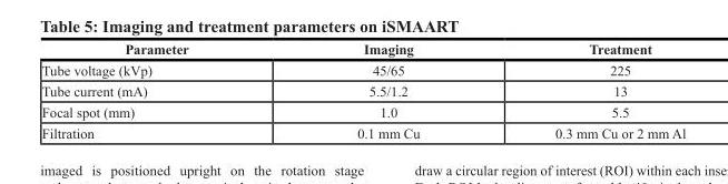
<table><thead><tr><td>Parameter</td><td>Imaging</td><td>Treatment</td></tr></thead><tbody><tr><td>Tube voltage (kVp)</td><td>45/65</td><td>225</td></tr><tr><td>Tube current (mA)</td><td>5.5/1.2</td><td>13</td></tr><tr><td>Focal spot (mm)</td><td>1.0</td><td>5.5</td></tr><tr><td>Filtration</td><td>0.1 mm Cu</td><td>0.3 mm Cu or 2 mm Al</td></tr></tbody></table>